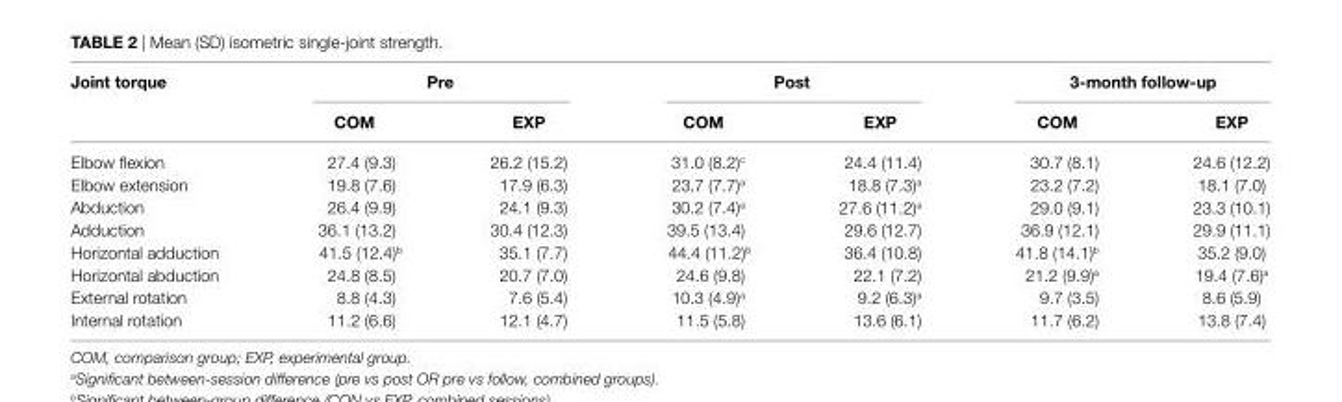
<table><thead><tr><td rowspan="2">Joint torque</td><td colspan="2">Pre</td><td colspan="2">Post</td><td colspan="2">3-month follow-up</td></tr><tr><td>cOM</td><td>eXP</td><td>cOM</td><td>eXP</td><td>cOM</td><td>eXP</td></tr></thead><tbody><tr><td>Elbow flexion</td><td>27.4 (9.3)</td><td>26.2 (15.2)</td><td>31.0 (8.2)<sup>c</sup></td><td>24.4 (11.4)</td><td>30.7 (8.1)</td><td>24.6 (12.2)</td></tr><tr><td>Elbow extension</td><td>19.8 (7.6)</td><td>17.9 (6.3)</td><td>23.7 (7.7)<sup>a</sup></td><td>18.8 (7.3)<sup>a</sup></td><td>23.2 (7.2)</td><td>18.1 (7.0)</td></tr><tr><td>Abduction</td><td>26.4 (9.9)</td><td>24.1 (9.3)</td><td>30.2 (7.4)<sup>a</sup></td><td>27.6 (11.2)<sup>a</sup></td><td>29.0 (9.1)</td><td>23.3 (10.1)</td></tr><tr><td>Adduction</td><td>36.1 (13.2)</td><td>30.4 (12.3)</td><td>39.5 (13.4)</td><td>29.6 (12.7)</td><td>36.9 (12.1)</td><td>29.9 (11.1)</td></tr><tr><td>Horizontal adduction</td><td>41.5 (12.4)<sup>b</sup></td><td>35.1 (7.7)</td><td>44.4 (11.2)<sup>b</sup></td><td>36.4 (10.8)</td><td>41.8 (14.1)<sup>b</sup></td><td>35.2 (9.0)</td></tr><tr><td>Horizontal abduction</td><td>24.8 (8.5)</td><td>20.7 (7.0)</td><td>24.6 (9.8)</td><td>22.1 (7.2)</td><td>21.2 (9.9)<sup>a</sup></td><td>19.4 (7.6)<sup>a</sup></td></tr><tr><td>External rotation</td><td>8.8 (4.3)</td><td>7.6 (5.4)</td><td>10.3 (4.9)<sup>a</sup></td><td>9.2 (6.3)<sup>a</sup></td><td>9.7 (3.5)</td><td>8.6 (5.9)</td></tr><tr><td>Internal rotation</td><td>11.2 (6.6)</td><td>12.1 (4.7)</td><td>11.5 (5.8)</td><td>13.6 (6.1)</td><td>11.7 (6.2)</td><td>13.8 (7.4)</td></tr></tbody></table>